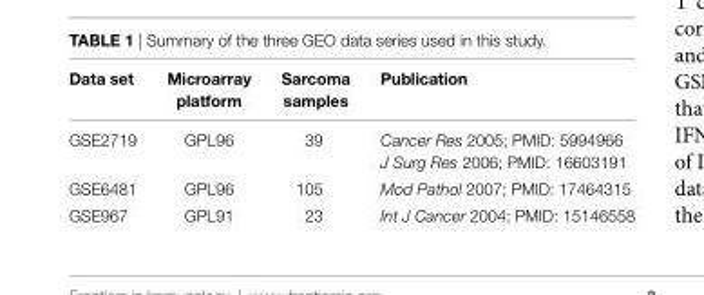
<table><thead><tr><td>Data set</td><td>Microarray platform</td><td>sarcoma samples</td><td>Publication</td></tr></thead><tbody><tr><td rowspan="2">GSE2719</td><td rowspan="2">GPL96</td><td rowspan="2">39</td><td>Cancer Res 2005; PMID: 5994966</td></tr><tr><td>J Surg Res 2006; PMID: 16603191</td></tr><tr><td>GSE6481</td><td>GPL96</td><td>105</td><td>Mod Pathol 2007; PMID: 17464315</td></tr><tr><td>GSE967</td><td>GPL91</td><td>23</td><td>Int J Cancer 2004; PMID: 15146558</td></tr></tbody></table>